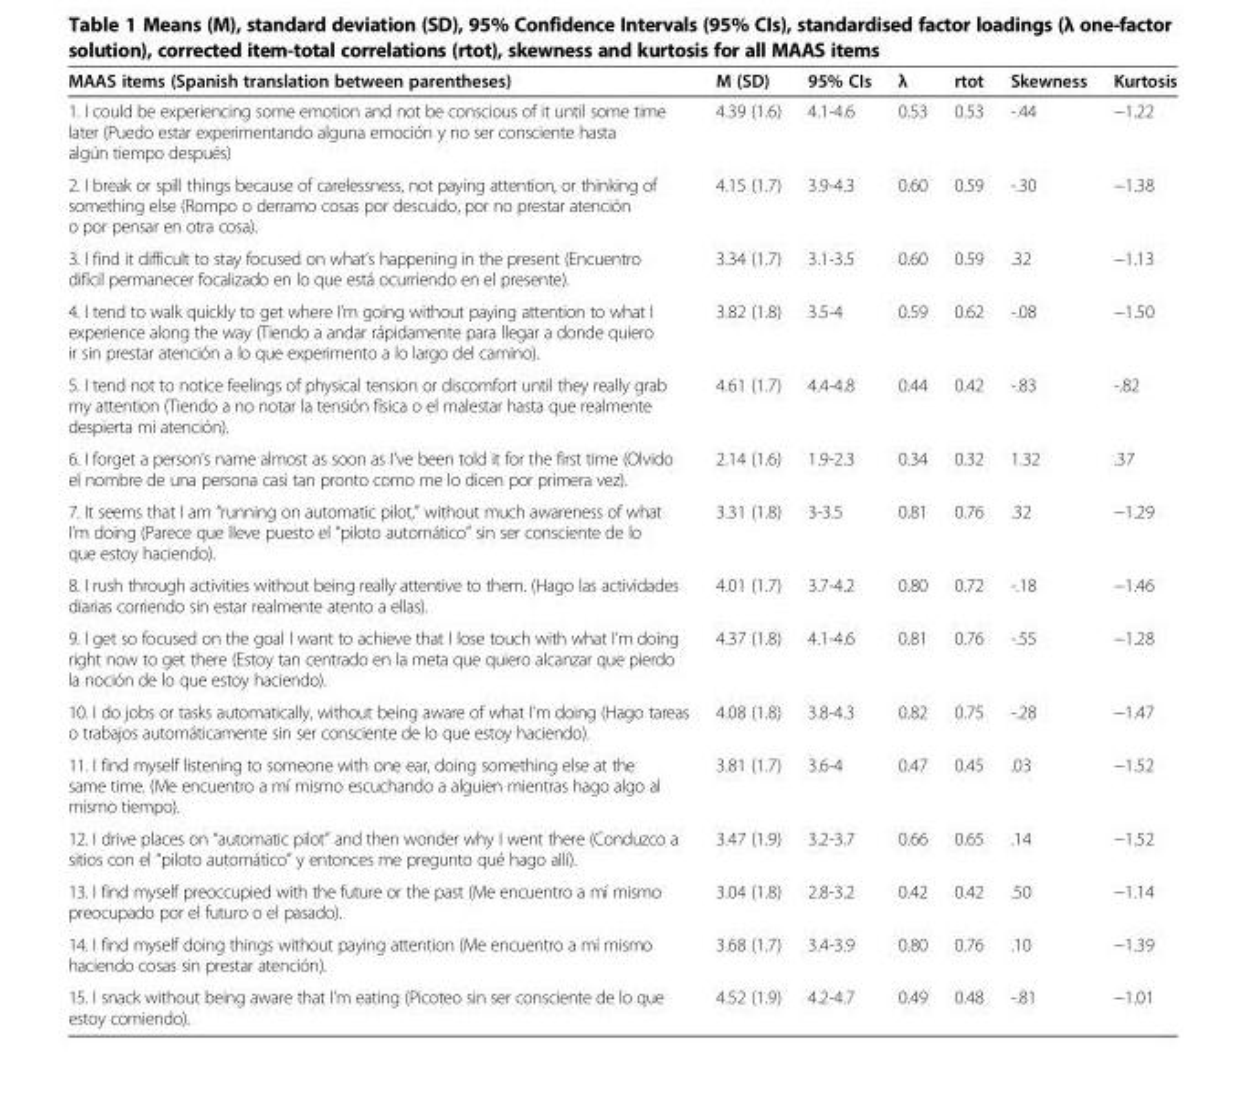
<table><thead><tr><td>MAAS items (Spanish translation between parentheses)</td><td>M (SD)</td><td>95% CIs</td><td>λ</td><td>rtot</td><td>Skewness</td><td>Kurtosis</td></tr></thead><tbody><tr><td>1. I could be experiencing some emotion and not be conscious of it until some time later (Puedo estar experimentando alguna emoción y no ser consciente hasta algún tiempo después)</td><td>4.39 (1.6)</td><td>4.1-4.6</td><td>0.53</td><td>0.53</td><td>-.44</td><td>−1.22</td></tr><tr><td>2. I break or spill things because of carelessness, not paying attention, or thinking of something else (Rompo o derramo cosas por descuido, por no prestar atención o por pensar en otra cosa).</td><td>4.15 (1.7)</td><td>3.9-4.3</td><td>0.60</td><td>0.59</td><td>-.30</td><td>−1.38</td></tr><tr><td>3. I find it difficult to stay focused on what’s happening in the present (Encuentro difícil permanecer focalizado en lo que está ocurriendo en el presente).</td><td>3.34 (1.7)</td><td>3.1-3.5</td><td>0.60</td><td>0.59</td><td>.32</td><td>−1.13</td></tr><tr><td>4. I tend to walk quickly to get where I’m going without paying attention to what I experience along the way (Tiendo a andar rápidamente para llegar a donde quiero ir sin prestar atención a lo que experimento a lo largo del camino).</td><td>3.82 (1.8)</td><td>3.5-4</td><td>0.59</td><td>0.62</td><td>-.08</td><td>−1.50</td></tr><tr><td>5. I tend not to notice feelings of physical tension or discomfort until they really grab my attention (Tiendo a no notar la tensión física o el malestar hasta que realmente despierta mi atención).</td><td>4.61 (1.7)</td><td>4.4-4.8</td><td>0.44</td><td>0.42</td><td>-.83</td><td>-.82</td></tr><tr><td>6. I forget a person’s name almost as soon as I’ve been told it for the first time (Olvido el nombre de una persona casi tan pronto como me lo dicen por primera vez).</td><td>2.14 (1.6)</td><td>1.9-2.3</td><td>0.34</td><td>0.32</td><td>1.32</td><td>.37</td></tr><tr><td>7. It seems that I am “running on automatic pilot,” without much awareness of what I’m doing (Parece que lleve puesto el “piloto automático” sin ser consciente de lo que estoy haciendo).</td><td>3.31 (1.8)</td><td>3-3.5</td><td>0.81</td><td>0.76</td><td>.32</td><td>−1.29</td></tr><tr><td>8. I rush through activities without being really attentive to them. (Hago las actividades diarias corriendo sin estar realmente atento a ellas).</td><td>4.01 (1.7)</td><td>3.7-4.2</td><td>0.80</td><td>0.72</td><td>-.18</td><td>−1.46</td></tr><tr><td>9. I get so focused on the goal I want to achieve that I lose touch with what I’m doing right now to get there (Estoy tan centrado en la meta que quiero alcanzar que pierdo la noción de lo que estoy haciendo).</td><td>4.37 (1.8)</td><td>4.1-4.6</td><td>0.81</td><td>0.76</td><td>-.55</td><td>−1.28</td></tr><tr><td>10. I do jobs or tasks automatically, without being aware of what I&#x27;m doing (Hago tareas o trabajos automáticamente sin ser consciente de lo que estoy haciendo).</td><td>4.08 (1.8)</td><td>3.8-4.3</td><td>0.82</td><td>0.75</td><td>-.28</td><td>−1.47</td></tr><tr><td>11. I find myself listening to someone with one ear, doing something else at the same time. (Me encuentro a mí mismo escuchando a alguien mientras hago algo al mismo tiempo).</td><td>3.81 (1.7)</td><td>3.6-4</td><td>0.47</td><td>0.45</td><td>.03</td><td>−1.52</td></tr><tr><td>12. I drive places on “automatic pilot” and then wonder why I went there (Conduzco a sitios con el “piloto automático” y entonces me pregunto qué hago allí).</td><td>3.47 (1.9)</td><td>3.2-3.7</td><td>0.66</td><td>0.65</td><td>.14</td><td>−1.52</td></tr><tr><td>13. I find myself preoccupied with the future or the past (Me encuentro a mí mismo preocupado por el futuro o el pasado).</td><td>3.04 (1.8)</td><td>2.8-3.2</td><td>0.42</td><td>0.42</td><td>.50</td><td>−1.14</td></tr><tr><td>14. I find myself doing things without paying attention (Me encuentro a mí mismo haciendo cosas sin prestar atención).</td><td>3.68 (1.7)</td><td>3.4-3.9</td><td>0.80</td><td>0.76</td><td>.10</td><td>−1.39</td></tr><tr><td>15. I snack without being aware that I’m eating (Picoteo sin ser consciente de lo que estoy comiendo).</td><td>4.52 (1.9)</td><td>4.2-4.7</td><td>0.49</td><td>0.48</td><td>-.81</td><td>−1.01</td></tr></tbody></table>